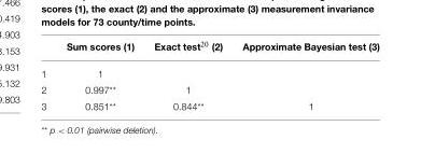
<table><thead><tr><td></td><td>Sum scores (1)</td><td>Exact test<sup>20</sup> (2)</td><td>Approximate Bayesian test (3)</td></tr></thead><tbody><tr><td>1</td><td>1</td><td></td><td></td></tr><tr><td>2</td><td>0.997**</td><td>1</td><td></td></tr><tr><td>3</td><td>0.851**</td><td>0.844**</td><td>1</td></tr></tbody></table>